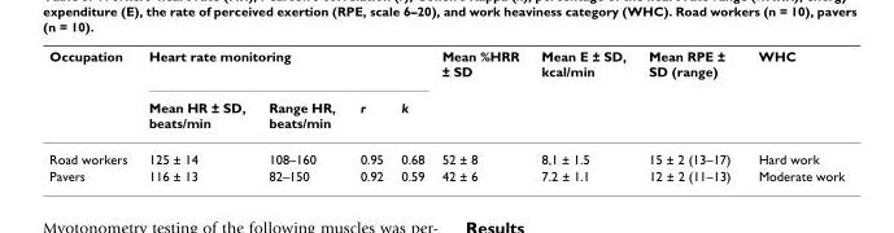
<table><thead><tr><td rowspan="2">Occupation</td><td colspan="4">Heart rate monitoring</td><td rowspan="2">Mean %HRR ± SD</td><td rowspan="2">Mean E ± SD, kcal/min</td><td rowspan="2">Mean RPE ± SD (range)</td><td rowspan="2">WHC</td></tr><tr><td>Mean HR ± SD, beats/min</td><td>Range HR, beats/min</td><td>r</td><td>k</td></tr></thead><tbody><tr><td>Road workers</td><td>125 ± 14</td><td>108–160</td><td>0.95</td><td>0.68</td><td>52 ± 8</td><td>8,1 ± 1.5</td><td>15 ± 2 (13–17)</td><td>Hard work</td></tr><tr><td>Pavers</td><td>116 ± 13</td><td>82–150</td><td>0.92</td><td>0.59</td><td>42 ± 6</td><td>7.2 ± 1.1</td><td>12 ± 2 (11–13)</td><td>Moderate work</td></tr></tbody></table>